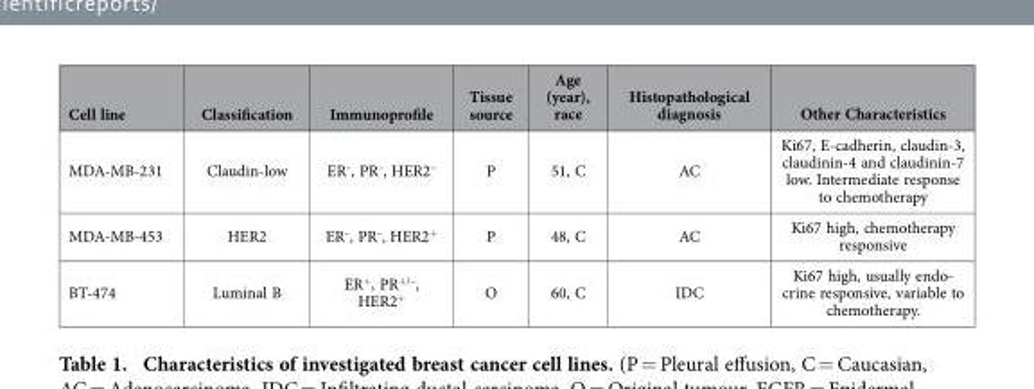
<table><thead><tr><td>Cell line</td><td>Classification</td><td>Immunoprofile</td><td>Tissue source</td><td>Age (year), race</td><td>Histopathological diagnosis</td><td>Other Characteristics</td></tr></thead><tbody><tr><td>MDA-MB-231</td><td>Claudin-low</td><td>ER<sup>–</sup>, PR<sup>–</sup>, HER2<sup>–</sup></td><td>P</td><td>51, C</td><td>AC</td><td>Ki67, E-cadherin, claudin-3, claudinin-4 and claudinin-7 low. Intermediate response to chemotherapy</td></tr><tr><td>MDA-MB-453</td><td>HER2</td><td>ER<sup>–</sup>, PR<sup>–</sup>, HER2<sup>+</sup></td><td>P</td><td>48, C</td><td>AC</td><td>Ki67 high, chemotherapy responsive</td></tr><tr><td>BT-474</td><td>Luminal B</td><td>ER<sup>+</sup>, PR<sup>+/–</sup>, HER2<sup>+</sup></td><td>O</td><td>60, C</td><td>IDC</td><td>Ki67 high, usually endo- crine responsive, variable to chemotherapy.</td></tr></tbody></table>